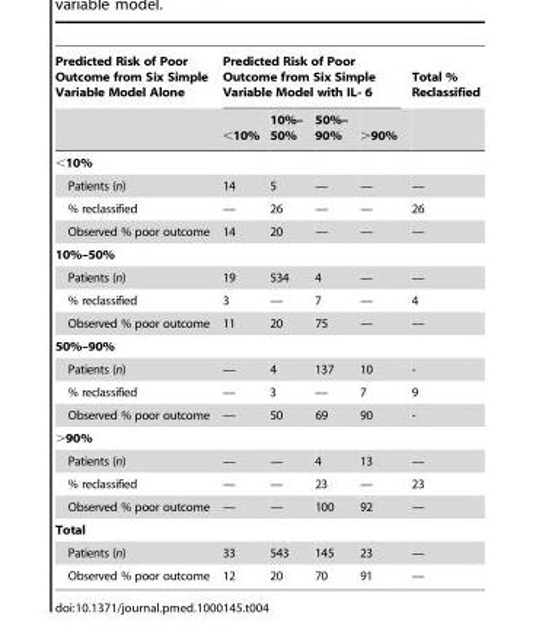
<table><thead><tr><td rowspan="2">Predicted Risk of Poor Outcome from Six Simple Variable Model Alone</td><td colspan="4">Predicted Risk of Poor Outcome from Six Simple Variable Model with IL- 6</td><td rowspan="2">Total % Reclassified</td></tr><tr><td>&lt;10%</td><td>10%– 50%</td><td>50%– 90%</td><td>&gt;90%</td></tr></thead><tbody><tr><td colspan="6">&lt;10%</td></tr><tr><td>Patients (n)</td><td>14</td><td>5</td><td>—</td><td>—</td><td>—</td></tr><tr><td>% reclassified</td><td>—</td><td>26</td><td>—</td><td>—</td><td>26</td></tr><tr><td>Observed % poor outcome</td><td>14</td><td>20</td><td>—</td><td>—</td><td>—</td></tr><tr><td colspan="6">10%–50%</td></tr><tr><td>Patients (n)</td><td>19</td><td>534</td><td>4</td><td>—</td><td>—</td></tr><tr><td>% reclassified</td><td>3</td><td>—</td><td>7</td><td>—</td><td>4</td></tr><tr><td>Observed % poor outcome</td><td>11</td><td>20</td><td>75</td><td>—</td><td>—</td></tr><tr><td colspan="6">50%–90%</td></tr><tr><td>Patients (n)</td><td>—</td><td>4</td><td>137</td><td>10</td><td>-</td></tr><tr><td>% reclassified</td><td>—</td><td>3</td><td>—</td><td>7</td><td>9</td></tr><tr><td>Observed % poor outcome</td><td>—</td><td>50</td><td>69</td><td>90</td><td>-</td></tr><tr><td colspan="6">&gt;90%</td></tr><tr><td>Patients (n)</td><td>—</td><td>—</td><td>4</td><td>13</td><td>—</td></tr><tr><td>% reclassified</td><td>—</td><td>—</td><td>23</td><td>—</td><td>23</td></tr><tr><td>Observed % poor outcome</td><td>—</td><td>—</td><td>100</td><td>92</td><td>—</td></tr><tr><td colspan="6">Total</td></tr><tr><td>Patients (n)</td><td>33</td><td>543</td><td>145</td><td>23</td><td>—</td></tr><tr><td>Observed % poor outcome</td><td>12</td><td>20</td><td>70</td><td>91</td><td>—</td></tr></tbody></table>